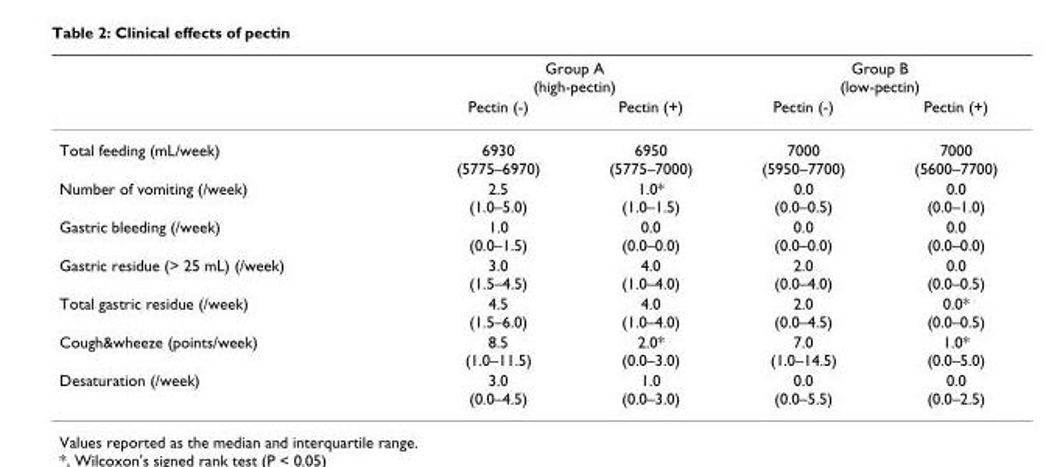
<table><thead><tr><td rowspan="2"></td><td colspan="2">Group A (high-pectin)</td><td colspan="2">Group B (low-pectin)</td></tr><tr><td>Pectin (-)</td><td>Pectin (+)</td><td>Pectin (-)</td><td>Pectin (+)</td></tr></thead><tbody><tr><td>Total feeding (mL/week)</td><td>6930 (5775–6970)</td><td>6950 (5775–7000)</td><td>7000 (5950–7700)</td><td>7000 (5600–7700)</td></tr><tr><td>Number of vomiting (/week)</td><td>2.5 (1.0–5.0)</td><td>1.0* (1.0–1.5)</td><td>0.0 (0.0–0.5)</td><td>0.0 (0.0–1.0)</td></tr><tr><td>Gastric bleeding (/week)</td><td>1.0 (0.0–1.5)</td><td>0.0 (0.0–0.0)</td><td>0.0 (0.0–0.0)</td><td>0.0 (0.0–0.0)</td></tr><tr><td>Gastric residue (&gt; 25 mL) (/week)</td><td>3.0 (1.5–4.5)</td><td>4.0 (1.0–4.0)</td><td>2.0 (0.0–4.0)</td><td>0.0 (0.0–0.5)</td></tr><tr><td>Total gastric residue (/week)</td><td>4.5 (1.5–6.0)</td><td>4.0 (1.0–4.0)</td><td>2.0 (0.0–4.5)</td><td>0.0* (0.0–0.5)</td></tr><tr><td>Cough&amp;wheeze (points/week)</td><td>8.5 (1.0–11.5)</td><td>2.0* (0.0–3.0)</td><td>7.0 (1.0–14.5)</td><td>1.0* (0.0–5.0)</td></tr><tr><td>Desaturation (/week)</td><td>3.0 (0.0–4.5)</td><td>1.0 (0.0–3.0)</td><td>0.0 (0.0–5.5)</td><td>0.0 (0.0–2.5)</td></tr></tbody></table>